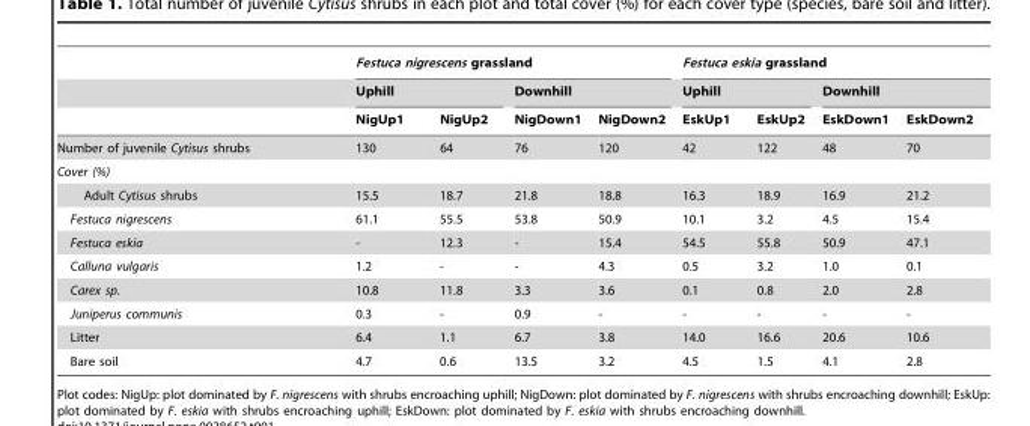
<table><thead><tr><td rowspan="3"></td><td colspan="4">Festuca nigrescens grassland</td><td colspan="4">Festuca eskia grassland</td></tr><tr><td colspan="2">Uphill</td><td colspan="2">Downhill</td><td colspan="2">Uphill</td><td colspan="2">Downhill</td></tr><tr><td>NigUp1</td><td>NigUp2</td><td>NigDown1</td><td>NigDown2</td><td>EskUp1</td><td>EskUp2</td><td>EskDown1</td><td>EskDown2</td></tr></thead><tbody><tr><td>Number of juvenile Cytisus shrubs</td><td>130</td><td>64</td><td>76</td><td>120</td><td>42</td><td>122</td><td>48</td><td>70</td></tr><tr><td colspan="9">Cover (%)</td></tr><tr><td>Adult Cytisus shrubs</td><td>15.5</td><td>18.7</td><td>21.8</td><td>18.8</td><td>16.3</td><td>18.9</td><td>16.9</td><td>21.2</td></tr><tr><td>Festuca nigrescens</td><td>61.1</td><td>55.5</td><td>53.8</td><td>50.9</td><td>10.1</td><td>3.2</td><td>4.5</td><td>15.4</td></tr><tr><td>Festuca eskia</td><td>-</td><td>12.3</td><td>-</td><td>15.4</td><td>54.5</td><td>55.8</td><td>50.9</td><td>47.1</td></tr><tr><td>Calluna vulgaris</td><td>1.2</td><td>-</td><td>-</td><td>4.3</td><td>0.5</td><td>3.2</td><td>1.0</td><td>0.1</td></tr><tr><td>Carex sp.</td><td>10.8</td><td>11.8</td><td>3.3</td><td>3.6</td><td>0.1</td><td>0.8</td><td>2.0</td><td>2.8</td></tr><tr><td>Juniperus communis</td><td>0.3</td><td>-</td><td>0.9</td><td>-</td><td>-</td><td>-</td><td>-</td><td>-</td></tr><tr><td>Litter</td><td>6.4</td><td>1.1</td><td>6.7</td><td>3.8</td><td>14.0</td><td>16.6</td><td>20.6</td><td>10.6</td></tr><tr><td>Bare soil</td><td>4.7</td><td>0.6</td><td>13.5</td><td>3.2</td><td>4.5</td><td>1.5</td><td>4.1</td><td>2.8</td></tr></tbody></table>